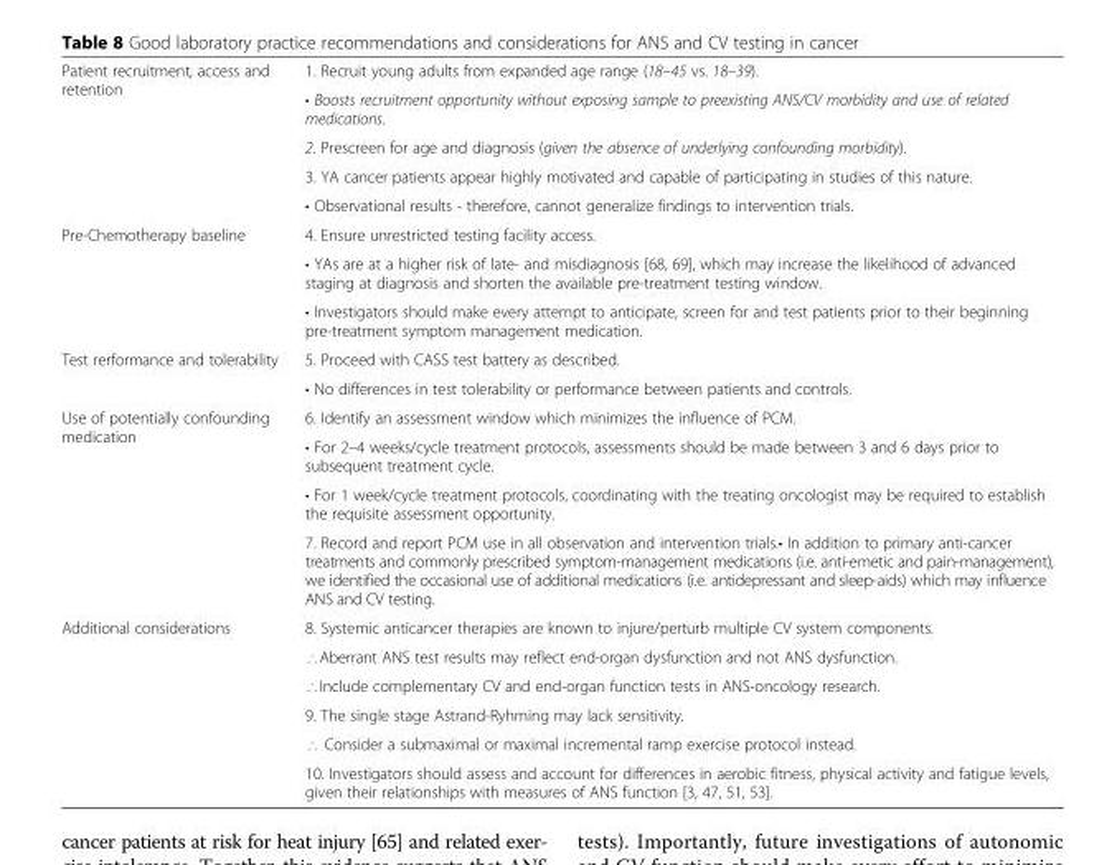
<table><tbody><tr><td rowspan="5">Patient recruitment, access and retention</td><td>1. Recruit young adults from expanded age range (18–45 vs. 18–39).</td></tr><tr><td>• Boosts recruitment opportunity without exposing sample to preexisting ANS/CV morbidity and use of related medications.</td></tr><tr><td>2. Prescreen for age and diagnosis (given the absence of underlying confounding morbidity).</td></tr><tr><td>3. YA cancer patients appear highly motivated and capable of participating in studies of this nature.</td></tr><tr><td>• Observational results - therefore, cannot generalize findings to intervention trials.</td></tr><tr><td rowspan="3">Pre-Chemotherapy baseline</td><td>4. Ensure unrestricted testing facility access.</td></tr><tr><td>• YAs are at a higher risk of late- and misdiagnosis [68, 69], which may increase the likelihood of advanced staging at diagnosis and shorten the available pre-treatment testing window.</td></tr><tr><td>• Investigators should make every attempt to anticipate, screen for and test patients prior to their beginning pre-treatment symptom management medication.</td></tr><tr><td rowspan="2">Test rerformance and tolerability</td><td>5. Proceed with CASS test battery as described.</td></tr><tr><td>• No differences in test tolerability or performance between patients and controls.</td></tr><tr><td rowspan="4">Use of potentially confounding medication</td><td>6. Identify an assessment window which minimizes the influence of PCM.</td></tr><tr><td>• For 2–4 weeks/cycle treatment protocols, assessments should be made between 3 and 6 days prior to subsequent treatment cycle.</td></tr><tr><td>• For 1 week/cycle treatment protocols, coordinating with the treating oncologist may be required to establish the requisite assessment opportunity.</td></tr><tr><td>7. Record and report PCM use in all observation and intervention trials.• In addition to primary anti-cancer treatments and commonly prescribed symptom-management medications (i.e. anti-emetic and pain-management), we identified the occasional use of additional medications (i.e. antidepressant and sleep-aids) which may influence ANS and CV testing.</td></tr><tr><td rowspan="6">Additional considerations</td><td>8. Systemic anticancer therapies are known to injure/perturb multiple CV system components.</td></tr><tr><td>∴Aberrant ANS test results may reflect end-organ dysfunction and not ANS dysfunction.</td></tr><tr><td>∴Include complementary CV and end-organ function tests in ANS-oncology research.</td></tr><tr><td>9. The single stage Astrand-Ryhming may lack sensitivity.</td></tr><tr><td>∴ Consider a submaximal or maximal incremental ramp exercise protocol instead.</td></tr><tr><td>10. Investigators should assess and account for differences in aerobic fitness, physical activity and fatigue levels, given their relationships with measures of ANS function [3, 47, 51, 53].</td></tr></tbody></table>